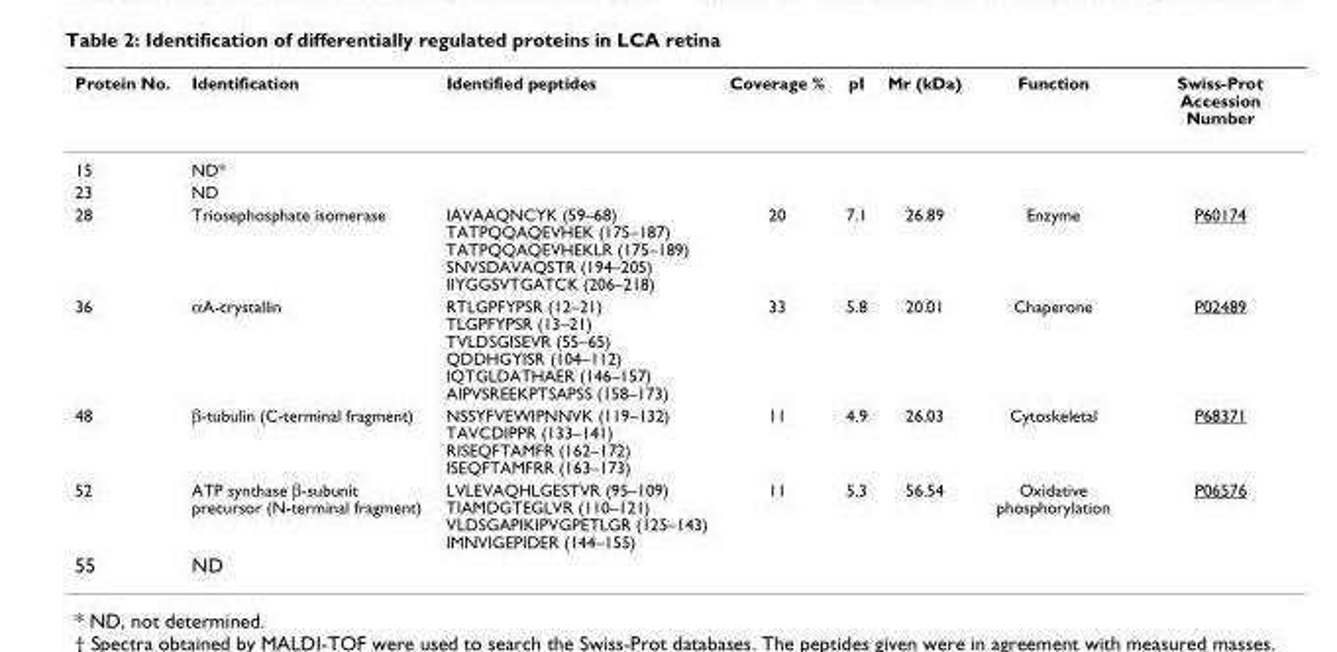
<table><thead><tr><td>Protein No.</td><td>Identification</td><td>Identified peptides</td><td>Coverage %</td><td>pI</td><td>Mr (kDa)</td><td>Function</td><td>Swiss-Prot Accession Number</td></tr></thead><tbody><tr><td>15</td><td>ND*</td><td></td><td></td><td></td><td></td><td></td><td></td></tr><tr><td>23</td><td>ND</td><td></td><td></td><td></td><td></td><td></td><td></td></tr><tr><td>28</td><td>Triosephosphate isomerase</td><td>IAVAAQNCYK (59–68) TATPQQAQEVHEK (175–187) TATPQQAQEVHEKLR (175–189) SNVSDAVAQSTR (194–205) IIYGGSVTGATCK (206–218)</td><td>20</td><td>7.1</td><td>26.89</td><td>Enzyme</td><td>P60174</td></tr><tr><td>36</td><td>αA-crystallin</td><td>RTLGPFYPSR (12–21) TLGPFYPSR (13–21) TVLDSGISEVR (55–65) QDDHGYISR (104–112) IQTGLDATHAER (146–157) AIPVSREEKPTSAPSS (158–173)</td><td>33</td><td>5.8</td><td>20.01</td><td>Chaperone</td><td>P02489</td></tr><tr><td>48</td><td>β-tubulin (C-terminal fragment)</td><td>NSSYFVEWIPNNVK (119–132) TAVCDIPPR (133–141) RISEQFTAMFR (162–172) ISEQFTAMFRR (163–173)</td><td>11</td><td>4.9</td><td>26.03</td><td>Cytoskeletal</td><td>P68371</td></tr><tr><td>52</td><td>ATP synthase β-subunit precursor (N-terminal fragment)</td><td>LVLEVAQHLGESTVR (95–109) TIAMDGTEGLVR (110–121) VLDSGAPIKIPVGPETLGR (125–143) IMNVIGEPIDER (144–155)</td><td>11</td><td>5.3</td><td>56.54</td><td>Oxidative phosphorylation</td><td>P06576</td></tr><tr><td>55</td><td>ND</td><td></td><td></td><td></td><td></td><td></td><td></td></tr></tbody></table>